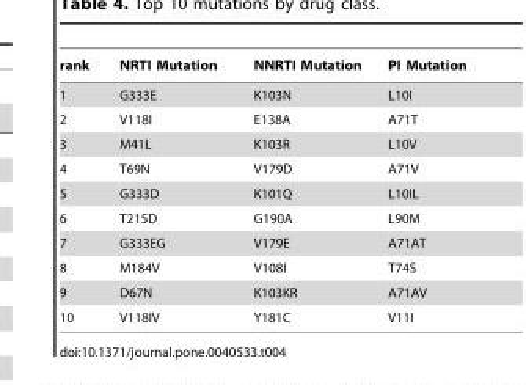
<table><thead><tr><td>rank</td><td>NRTI Mutation</td><td>NNRTI Mutation</td><td>PI Mutation</td></tr></thead><tbody><tr><td>1</td><td>G333E</td><td>K103N</td><td>L10I</td></tr><tr><td>2</td><td>V118I</td><td>E138A</td><td>A71T</td></tr><tr><td>3</td><td>M41L</td><td>K103R</td><td>L10V</td></tr><tr><td>4</td><td>T69N</td><td>V179D</td><td>A71V</td></tr><tr><td>5</td><td>G333D</td><td>K101Q</td><td>L10IL</td></tr><tr><td>6</td><td>T215D</td><td>G190A</td><td>L90M</td></tr><tr><td>7</td><td>G333EG</td><td>V179E</td><td>A71AT</td></tr><tr><td>8</td><td>M184V</td><td>V108I</td><td>T74S</td></tr><tr><td>9</td><td>D67N</td><td>K103KR</td><td>A71AV</td></tr><tr><td>10</td><td>V118IV</td><td>Y181C</td><td>V11I</td></tr></tbody></table>